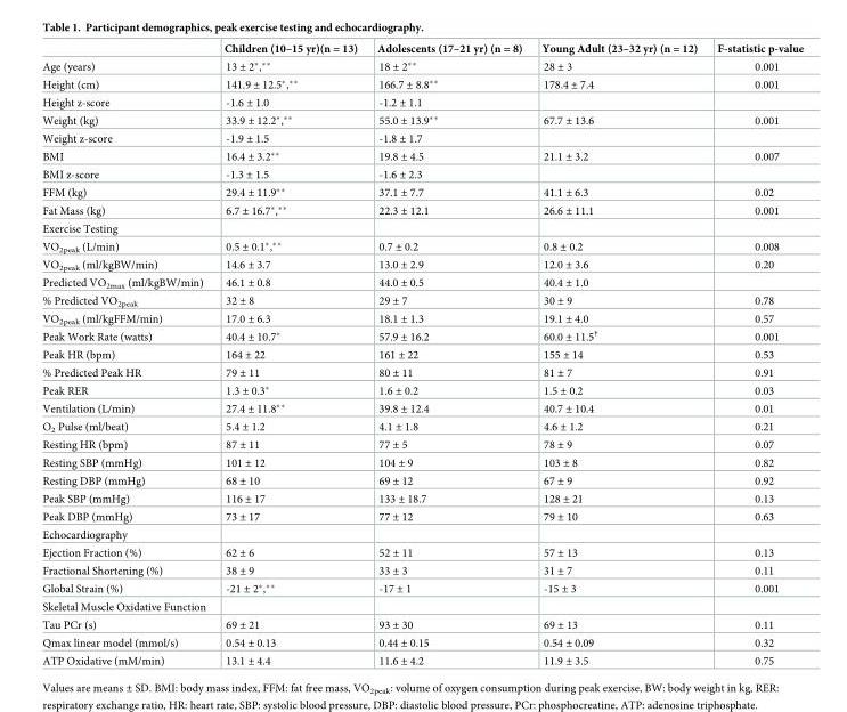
<table><thead><tr><td></td><td>Children (10–15 yr)(n = 13)</td><td>Adolescents (17–21 yr) (n = 8)</td><td>Young Adult (23–32 yr) (n = 12)</td><td>F-statistic p-value</td></tr></thead><tbody><tr><td>Age (years)</td><td>13 ± 2*,**</td><td>18 ± 2**</td><td>28 ± 3</td><td>0.001</td></tr><tr><td>Height (cm)</td><td>141.9 ± 12.5*,**</td><td>166.7 ± 8.8**</td><td>178.4 ± 7.4</td><td>0.001</td></tr><tr><td>Height z-score</td><td>-1.6 ± 1.0</td><td>-1.2 ± 1.1</td><td></td><td></td></tr><tr><td>Weight (kg)</td><td>33.9 ± 12.2*,**</td><td>55.0 ± 13.9**</td><td>67.7 ± 13.6</td><td>0.001</td></tr><tr><td>Weight z-score</td><td>-1.9 ± 1.5</td><td>-1.8 ± 1.7</td><td></td><td></td></tr><tr><td>BMI</td><td>16.4 ± 3.2**</td><td>19.8 ± 4.5</td><td>21.1 ± 3.2</td><td>0.007</td></tr><tr><td>BMI z-score</td><td>-1.3 ± 1.5</td><td>-1.6 ± 2.3</td><td></td><td></td></tr><tr><td>FFM (kg)</td><td>29.4 ± 11.9**</td><td>37.1 ± 7.7</td><td>41.1 ± 6.3</td><td>0.02</td></tr><tr><td>Fat Mass (kg)</td><td>6.7 ± 16.7*,**</td><td>22.3 ± 12.1</td><td>26.6 ± 11.1</td><td>0.001</td></tr><tr><td colspan="5">Exercise Testing</td></tr><tr><td>VO<sub>2peak</sub> (L/min)</td><td>0.5 ± 0.1*,**</td><td>0.7 ± 0.2</td><td>0.8 ± 0.2</td><td>0.008</td></tr><tr><td>VO<sub>2peak</sub> (ml/kgBW/min)</td><td>14.6 ± 3.7</td><td>13.0 ± 2.9</td><td>12.0 ± 3.6</td><td>0.20</td></tr><tr><td>Predicted VO<sub>2max</sub> (ml/kgBW/min)</td><td>46.1 ± 0.8</td><td>44.0 ± 0.5</td><td>40.4 ± 1.0</td><td></td></tr><tr><td>% Predicted VO<sub>2peak</sub></td><td>32 ± 8</td><td>29 ± 7</td><td>30 ± 9</td><td>0.78</td></tr><tr><td>VO<sub>2peak</sub> (ml/kgFFM/min)</td><td>17.0 ± 6.3</td><td>18.1 ± 1.3</td><td>19.1 ± 4.0</td><td>0.57</td></tr><tr><td>Peak Work Rate (watts)</td><td>40.4 ± 10.7*</td><td>57.9 ± 16.2</td><td>60.0 ± 11.5<sup>†</sup></td><td>0.001</td></tr><tr><td>Peak HR (bpm)</td><td>164 ± 22</td><td>161 ± 22</td><td>155 ± 14</td><td>0.53</td></tr><tr><td>% Predicted Peak HR</td><td>79 ± 11</td><td>80 ± 11</td><td>81 ± 7</td><td>0.91</td></tr><tr><td>Peak RER</td><td>1.3 ± 0.3*</td><td>1.6 ± 0.2</td><td>1.5 ± 0.2</td><td>0.03</td></tr><tr><td>Ventilation (L/min)</td><td>27.4 ± 11.8**</td><td>39.8 ± 12.4</td><td>40.7 ± 10.4</td><td>0.01</td></tr><tr><td>O<sub>2</sub> Pulse (ml/beat)</td><td>5.4 ± 1.2</td><td>4.1 ± 1.8</td><td>4.6 ± 1.2</td><td>0.21</td></tr><tr><td>Resting HR (bpm)</td><td>87 ± 11</td><td>77 ± 5</td><td>78 ± 9</td><td>0.07</td></tr><tr><td>Resting SBP (mmHg)</td><td>101 ± 12</td><td>104 ± 9</td><td>103 ± 8</td><td>0.82</td></tr><tr><td>Resting DBP (mmHg)</td><td>68 ± 10</td><td>69 ± 12</td><td>67 ± 9</td><td>0.92</td></tr><tr><td>Peak SBP (mmHg)</td><td>116 ± 17</td><td>133 ± 18.7</td><td>128 ± 21</td><td>0.13</td></tr><tr><td>Peak DBP (mmHg)</td><td>73 ± 17</td><td>77 ± 12</td><td>79 ± 10</td><td>0.63</td></tr><tr><td colspan="5">Echocardiography</td></tr><tr><td>Ejection Fraction (%)</td><td>62 ± 6</td><td>52 ± 11</td><td>57 ± 13</td><td>0.13</td></tr><tr><td>Fractional Shortening (%)</td><td>38 ± 9</td><td>33 ± 3</td><td>31 ± 7</td><td>0.11</td></tr><tr><td>Global Strain (%)</td><td>-21 ± 2*,**</td><td>-17 ± 1</td><td>-15 ± 3</td><td>0.001</td></tr><tr><td colspan="5">Skeletal Muscle Oxidative Function</td></tr><tr><td>Tau PCr (s)</td><td>69 ± 21</td><td>93 ± 30</td><td>69 ± 13</td><td>0.11</td></tr><tr><td>Qmax linear model (mmol/s)</td><td>0.54 ± 0.13</td><td>0.44 ± 0.15</td><td>0.54 ± 0.09</td><td>0.32</td></tr><tr><td>ATP Oxidative (mM/min)</td><td>13.1 ± 4.4</td><td>11.6 ± 4.2</td><td>11.9 ± 3.5</td><td>0.75</td></tr></tbody></table>